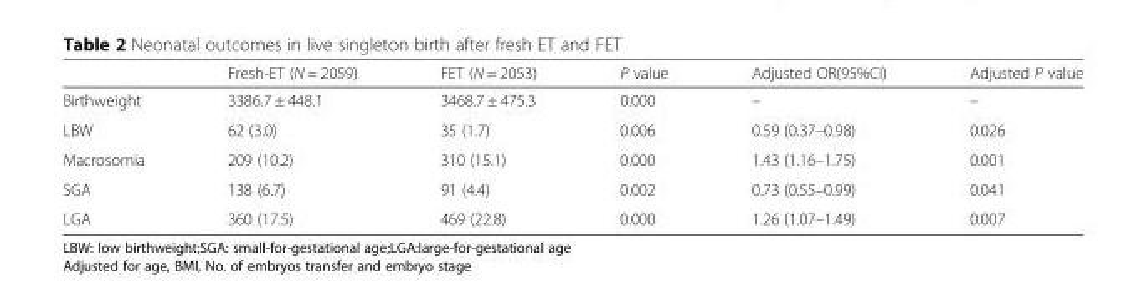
<table><thead><tr><td></td><td>Fresh-ET (N = 2059)</td><td>FET (N = 2053)</td><td>P value</td><td>Adjusted OR(95%CI)</td><td>Adjusted P value</td></tr></thead><tbody><tr><td>Birthweight</td><td>3386.7 ± 448.1</td><td>3468.7 ± 475.3</td><td>0.000</td><td>–</td><td>–</td></tr><tr><td>LBW</td><td>62 (3.0)</td><td>35 (1.7)</td><td>0.006</td><td>0.59 (0.37–0.98)</td><td>0.026</td></tr><tr><td>Macrosomia</td><td>209 (10.2)</td><td>310 (15.1)</td><td>0.000</td><td>1.43 (1.16–1.75)</td><td>0.001</td></tr><tr><td>SGA</td><td>138 (6.7)</td><td>91 (4.4)</td><td>0.002</td><td>0.73 (0.55–0.99)</td><td>0.041</td></tr><tr><td>LGA</td><td>360 (17.5)</td><td>469 (22.8)</td><td>0.000</td><td>1.26 (1.07–1.49)</td><td>0.007</td></tr></tbody></table>